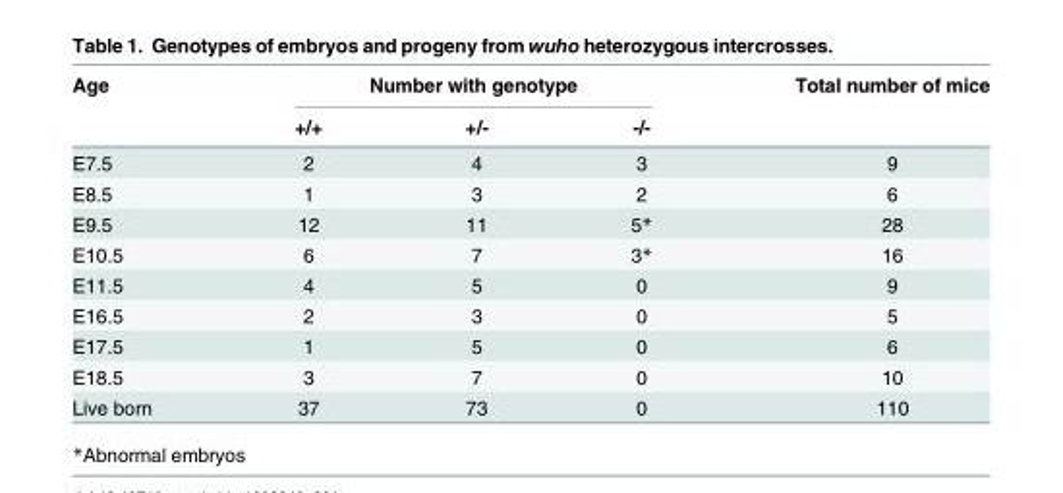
<table><thead><tr><td rowspan="2">Age</td><td colspan="3">Number with genotype</td><td rowspan="2">Total number of mice</td></tr><tr><td>+/+</td><td>+/-</td><td>-/-</td></tr></thead><tbody><tr><td>E7.5</td><td>2</td><td>4</td><td>3</td><td>9</td></tr><tr><td>E8.5</td><td>1</td><td>3</td><td>2</td><td>6</td></tr><tr><td>E9.5</td><td>12</td><td>11</td><td>5*</td><td>28</td></tr><tr><td>E10.5</td><td>6</td><td>7</td><td>3*</td><td>16</td></tr><tr><td>E11.5</td><td>4</td><td>5</td><td>0</td><td>9</td></tr><tr><td>E16.5</td><td>2</td><td>3</td><td>0</td><td>5</td></tr><tr><td>E17.5</td><td>1</td><td>5</td><td>0</td><td>6</td></tr><tr><td>E18.5</td><td>3</td><td>7</td><td>0</td><td>10</td></tr><tr><td>Live born</td><td>37</td><td>73</td><td>0</td><td>110</td></tr></tbody></table>